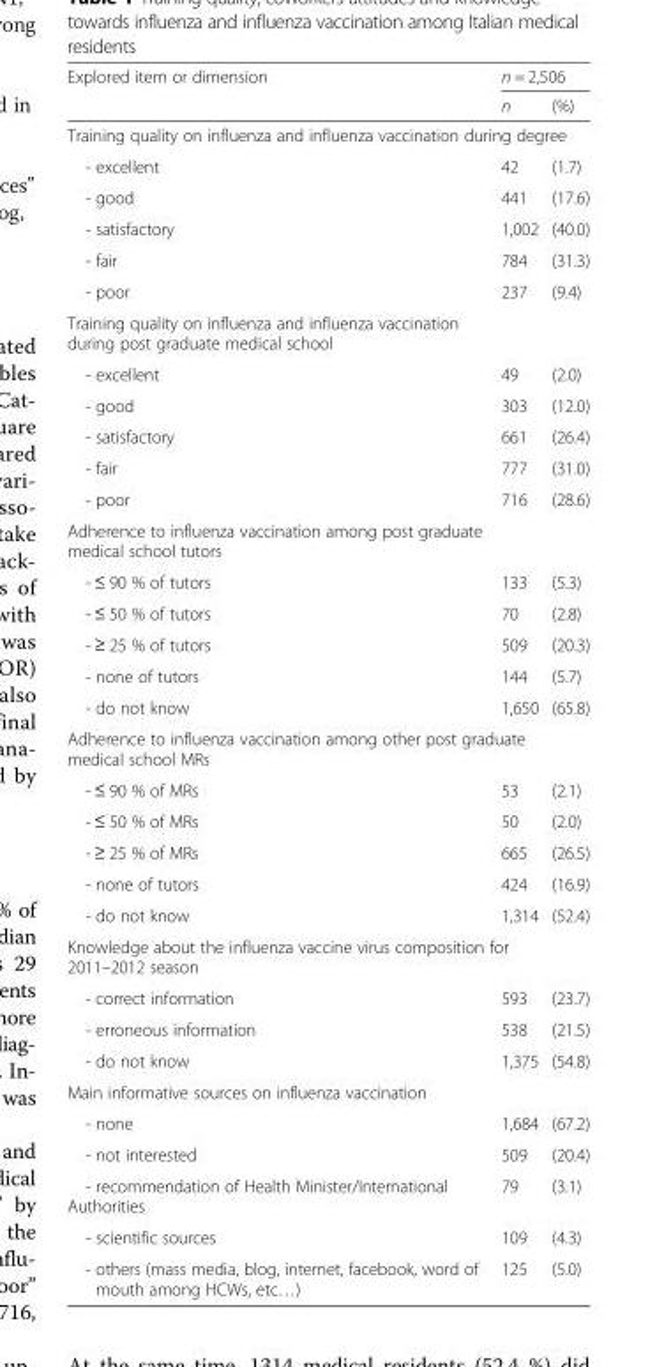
<table><thead><tr><td rowspan="2">Explored item or dimension</td><td colspan="2">n = 2,506</td></tr><tr><td>n</td><td>(%)</td></tr></thead><tbody><tr><td colspan="3">Training quality on influenza and influenza vaccination during degree</td></tr><tr><td>- excellent</td><td>42</td><td>(1.7)</td></tr><tr><td>- good</td><td>441</td><td>(17.6)</td></tr><tr><td>- satisfactory</td><td>1,002</td><td>(40.0)</td></tr><tr><td>- fair</td><td>784</td><td>(31.3)</td></tr><tr><td>- poor</td><td>237</td><td>(9.4)</td></tr><tr><td colspan="3">Training quality on influenza and influenza vaccination during post graduate medical school</td></tr><tr><td>- excellent</td><td>49</td><td>(2.0)</td></tr><tr><td>- good</td><td>303</td><td>(12.0)</td></tr><tr><td>- satisfactory</td><td>661</td><td>(26.4)</td></tr><tr><td>- fair</td><td>777</td><td>(31.0)</td></tr><tr><td>- poor</td><td>716</td><td>(28.6)</td></tr><tr><td colspan="3">Adherence to influenza vaccination among post graduate medical school tutors</td></tr><tr><td>- ≤ 90 % of tutors</td><td>133</td><td>(5.3)</td></tr><tr><td>- ≤ 50 % of tutors</td><td>70</td><td>(2.8)</td></tr><tr><td>- ≥ 25 % of tutors</td><td>509</td><td>(20.3)</td></tr><tr><td>- none of tutors</td><td>144</td><td>(5.7)</td></tr><tr><td>- do not know</td><td>1,650</td><td>(65.8)</td></tr><tr><td colspan="3">Adherence to influenza vaccination among other post graduate medical school MRs</td></tr><tr><td>- ≤ 90 % of MRs</td><td>53</td><td>(2.1)</td></tr><tr><td>- ≤ 50 % of MRs</td><td>50</td><td>(2.0)</td></tr><tr><td>- ≥ 25 % of MRs</td><td>665</td><td>(26.5)</td></tr><tr><td>- none of tutors</td><td>424</td><td>(16.9)</td></tr><tr><td>- do not know</td><td>1,314</td><td>(52.4)</td></tr><tr><td colspan="3">Knowledge about the influenza vaccine virus composition for 2011–2012 season</td></tr><tr><td>- correct information</td><td>593</td><td>(23.7)</td></tr><tr><td>- erroneous information</td><td>538</td><td>(21.5)</td></tr><tr><td>- do not know</td><td>1,375</td><td>(54.8)</td></tr><tr><td colspan="3">Main informative sources on influenza vaccination</td></tr><tr><td>- none</td><td>1,684</td><td>(67.2)</td></tr><tr><td>- not interested</td><td>509</td><td>(20.4)</td></tr><tr><td>- recommendation of Health Minister/International Authorities</td><td>79</td><td>(3.1)</td></tr><tr><td>- scientific sources</td><td>109</td><td>(4.3)</td></tr><tr><td>- others (mass media, blog, internet, facebook, word of mouth among HCWs, etc…)</td><td>125</td><td>(5.0)</td></tr></tbody></table>